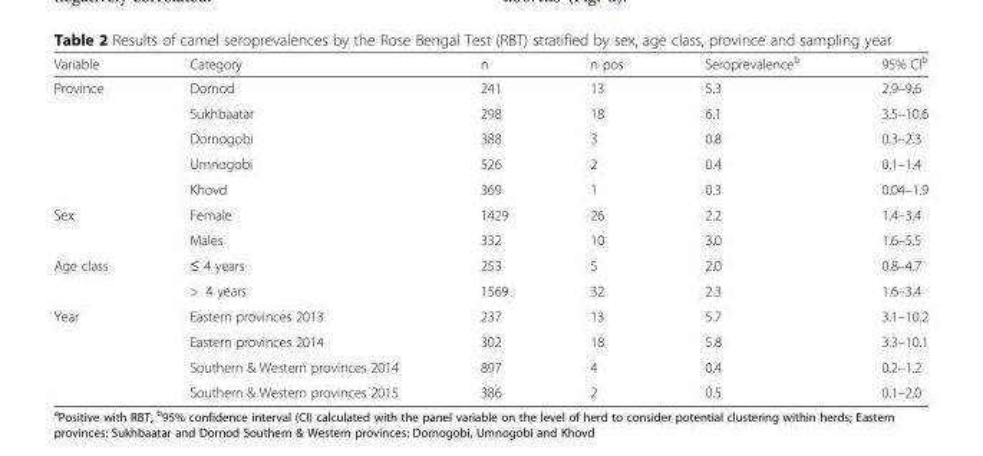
<table><thead><tr><td>Variable</td><td>Category</td><td>n</td><td>n pos</td><td>Seroprevalence<sup>b</sup></td><td>95% CI<sup>b</sup></td></tr></thead><tbody><tr><td rowspan="5">Province</td><td>Dornod</td><td>241</td><td>13</td><td>5.3</td><td>2.9–9.6</td></tr><tr><td>Sukhbaatar</td><td>298</td><td>18</td><td>6.1</td><td>3.5–10.6</td></tr><tr><td>Dornogobi</td><td>388</td><td>3</td><td>0.8</td><td>0.3–2.3</td></tr><tr><td>Umnogobi</td><td>526</td><td>2</td><td>0.4</td><td>0.1–1.4</td></tr><tr><td>Khovd</td><td>369</td><td>1</td><td>0.3</td><td>0.04–1.9</td></tr><tr><td rowspan="2">Sex</td><td>Female</td><td>1429</td><td>26</td><td>2.2</td><td>1.4–3.4</td></tr><tr><td>Males</td><td>332</td><td>10</td><td>3.0</td><td>1.6–5.5</td></tr><tr><td rowspan="2">Age class</td><td>≤ 4 years</td><td>253</td><td>5</td><td>2.0</td><td>0.8–4.7</td></tr><tr><td>&gt; 4 years</td><td>1569</td><td>32</td><td>2.3</td><td>1.6–3.4</td></tr><tr><td rowspan="4">Year</td><td>Eastern provinces 2013</td><td>237</td><td>13</td><td>5.7</td><td>3.1–10.2</td></tr><tr><td>Eastern provinces 2014</td><td>302</td><td>18</td><td>5.8</td><td>3.3–10.1</td></tr><tr><td>Southern &amp; Western provinces 2014</td><td>897</td><td>4</td><td>0.4</td><td>0.2–1.2</td></tr><tr><td>Southern &amp; Western provinces 2015</td><td>386</td><td>2</td><td>0.5</td><td>0.1–2.0</td></tr></tbody></table>